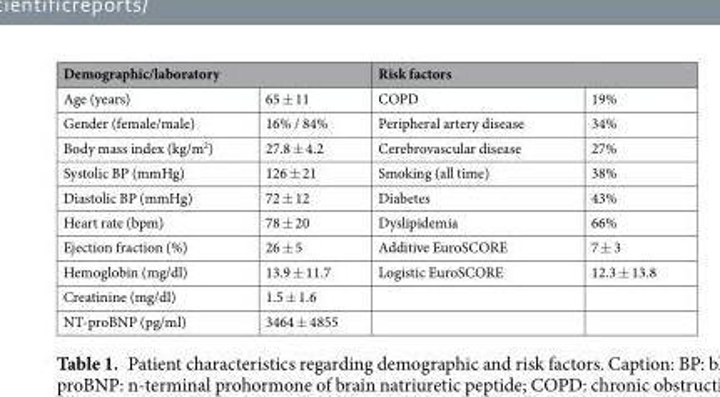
<table><thead><tr><td colspan="2">Demographic/laboratory</td><td colspan="2">Risk factors</td></tr><tr><td>Age (years)</td><td>65 ± 11</td><td>COPD</td><td>19%</td></tr></thead><tbody><tr><td>Gender (female/male)</td><td>16% / 84%</td><td>Peripheral artery disease</td><td>34%</td></tr><tr><td>Body mass index (kg/m<sup>2</sup>)</td><td>27.8 ± 4.2</td><td>Cerebrovascular disease</td><td>27%</td></tr><tr><td>Systolic BP (mmHg)</td><td>126 ± 21</td><td>Smoking (all time)</td><td>38%</td></tr><tr><td>Diastolic BP (mmHg)</td><td>72 ± 12</td><td>Diabetes</td><td>43%</td></tr><tr><td>Heart rate (bpm)</td><td>78 ± 20</td><td>Dyslipidemia</td><td>66%</td></tr><tr><td>Ejection fraction (%)</td><td>26 ± 5</td><td>Additive EuroSCORE</td><td>7 ± 3</td></tr><tr><td>Hemoglobin (mg/dl)</td><td>13.9 ± 11.7</td><td>Logistic EuroSCORE</td><td>12.3 ± 13.8</td></tr><tr><td>Creatinine (mg/dl)</td><td>1.5 ± 1.6</td><td></td><td></td></tr><tr><td>NT-proBNP (pg/ml)</td><td>3464 ± 4855</td><td></td><td></td></tr></tbody></table>